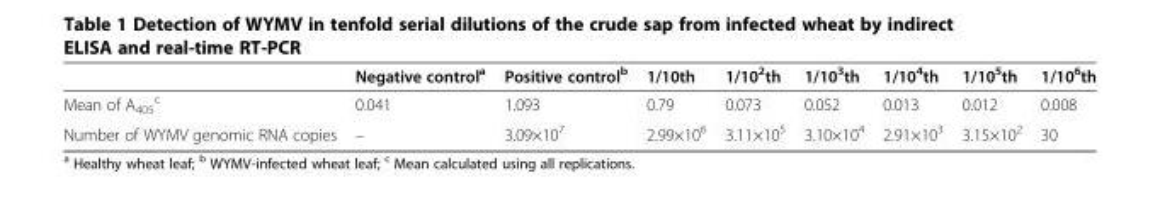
<table><thead><tr><td></td><td>Negative control<sup>a</sup></td><td>Positive control<sup>b</sup></td><td>1/10th</td><td>1/10<sup>2</sup>th</td><td>1/10<sup>3</sup>th</td><td>1/10<sup>4</sup>th</td><td>1/10<sup>5</sup>th</td><td>1/10<sup>6</sup>th</td></tr></thead><tbody><tr><td>Mean of A<sub>405</sub> <sup>c</sup></td><td>0.041</td><td>1.093</td><td>0.79</td><td>0.073</td><td>0.052</td><td>0.013</td><td>0.012</td><td>0.008</td></tr><tr><td>Number of WYMV genomic RNA copies</td><td>–</td><td>3.09×10<sup>7</sup></td><td>2.99×10<sup>6</sup></td><td>3.11×10<sup>5</sup></td><td>3.10×10<sup>4</sup></td><td>2.91×10<sup>3</sup></td><td>3.15×10<sup>2</sup></td><td>30</td></tr></tbody></table>